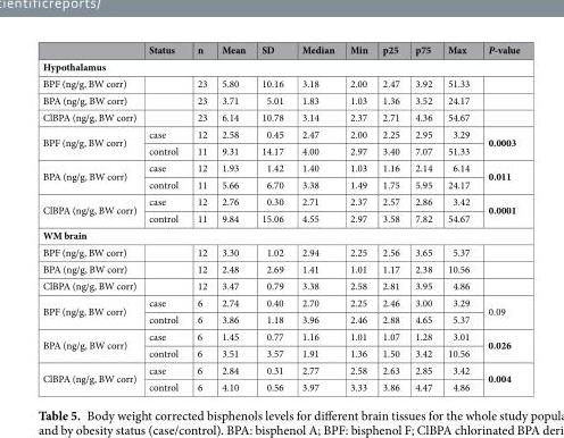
<table><thead><tr><td></td><td>Status</td><td>n</td><td>Mean</td><td>SD</td><td>Median</td><td>Min</td><td>p25</td><td>p75</td><td>Max</td><td>P-value</td></tr></thead><tbody><tr><td colspan="11">Hypothalamus</td></tr><tr><td>BPF (ng/g, BW corr)</td><td></td><td>23</td><td>5.80</td><td>10.16</td><td>3.18</td><td>2.00</td><td>2.47</td><td>3.92</td><td>51.33</td><td></td></tr><tr><td>BPA (ng/g, BW corr)</td><td></td><td>23</td><td>3.71</td><td>5.01</td><td>1.83</td><td>1.03</td><td>1.36</td><td>3.52</td><td>24.17</td><td></td></tr><tr><td>ClBPA (ng/g, BW corr)</td><td></td><td>23</td><td>6.14</td><td>10.78</td><td>3.14</td><td>2.37</td><td>2.71</td><td>4.36</td><td>54.67</td><td></td></tr><tr><td rowspan="2">BPF (ng/g, BW corr)</td><td>case</td><td>12</td><td>2.58</td><td>0.45</td><td>2.47</td><td>2.00</td><td>2.25</td><td>2.95</td><td>3.29</td><td rowspan="2">0.0003</td></tr><tr><td>control</td><td>11</td><td>9.31</td><td>14.17</td><td>4.00</td><td>2.97</td><td>3.40</td><td>7.07</td><td>51.33</td></tr><tr><td rowspan="2">BPA (ng/g, BW corr)</td><td>case</td><td>12</td><td>1.93</td><td>1.42</td><td>1.40</td><td>1.03</td><td>1.16</td><td>2.14</td><td>6.14</td><td rowspan="2">0.011</td></tr><tr><td>control</td><td>11</td><td>5.66</td><td>6.70</td><td>3.38</td><td>1.49</td><td>1.75</td><td>5.95</td><td>24.17</td></tr><tr><td rowspan="2">ClBPA (ng/g, BW corr)</td><td>case</td><td>12</td><td>2.76</td><td>0.30</td><td>2.71</td><td>2.37</td><td>2.57</td><td>2.86</td><td>3.42</td><td rowspan="2">0.0001</td></tr><tr><td>control</td><td>11</td><td>9.84</td><td>15.06</td><td>4.55</td><td>2.97</td><td>3.58</td><td>7.82</td><td>54.67</td></tr><tr><td colspan="11">WM brain</td></tr><tr><td>BPF (ng/g, BW corr)</td><td></td><td>12</td><td>3.30</td><td>1.02</td><td>2.94</td><td>2.25</td><td>2.56</td><td>3.65</td><td>5.37</td><td></td></tr><tr><td>BPA (ng/g, BW corr)</td><td></td><td>12</td><td>2.48</td><td>2.69</td><td>1.41</td><td>1.01</td><td>1.17</td><td>2.38</td><td>10.56</td><td></td></tr><tr><td>ClBPA (ng/g, BW corr)</td><td></td><td>12</td><td>3.47</td><td>0.79</td><td>3.38</td><td>2.58</td><td>2.81</td><td>3.95</td><td>4.86</td><td></td></tr><tr><td rowspan="2">BPF (ng/g, BW corr)</td><td>case</td><td>6</td><td>2.74</td><td>0.40</td><td>2.70</td><td>2.25</td><td>2.46</td><td>3.00</td><td>3.29</td><td rowspan="2">0.09</td></tr><tr><td>control</td><td>6</td><td>3.86</td><td>1.18</td><td>3.96</td><td>2.46</td><td>2.88</td><td>4.65</td><td>5.37</td></tr><tr><td rowspan="2">BPA (ng/g, BW corr)</td><td>case</td><td>6</td><td>1.45</td><td>0.77</td><td>1.16</td><td>1.01</td><td>1.07</td><td>1.28</td><td>3.01</td><td rowspan="2">0.026</td></tr><tr><td>control</td><td>6</td><td>3.51</td><td>3.57</td><td>1.91</td><td>1.36</td><td>1.50</td><td>3.42</td><td>10.56</td></tr><tr><td rowspan="2">ClBPA (ng/g, BW corr)</td><td>case</td><td>6</td><td>2.84</td><td>0.31</td><td>2.77</td><td>2.58</td><td>2.63</td><td>2.85</td><td>3.42</td><td rowspan="2">0.004</td></tr><tr><td>control</td><td>6</td><td>4.10</td><td>0.56</td><td>3.97</td><td>3.33</td><td>3.86</td><td>4.47</td><td>4.86</td></tr></tbody></table>